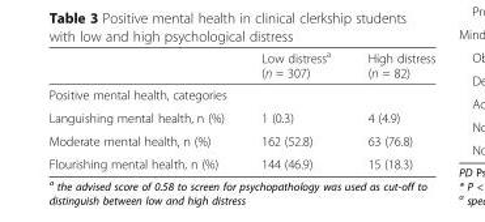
<table><thead><tr><td></td><td>Low distress<sup>a</sup> (n = 307)</td><td>High distress (n = 82)</td></tr></thead><tbody><tr><td colspan="3">Positive mental health, categories</td></tr><tr><td>Languishing mental health, n (%)</td><td>1 (0.3)</td><td>4 (4.9)</td></tr><tr><td>Moderate mental health, n (%)</td><td>162 (52.8)</td><td>63 (76.8)</td></tr><tr><td>Flourishing mental health, n (%)</td><td>144 (46.9)</td><td>15 (18.3)</td></tr></tbody></table>